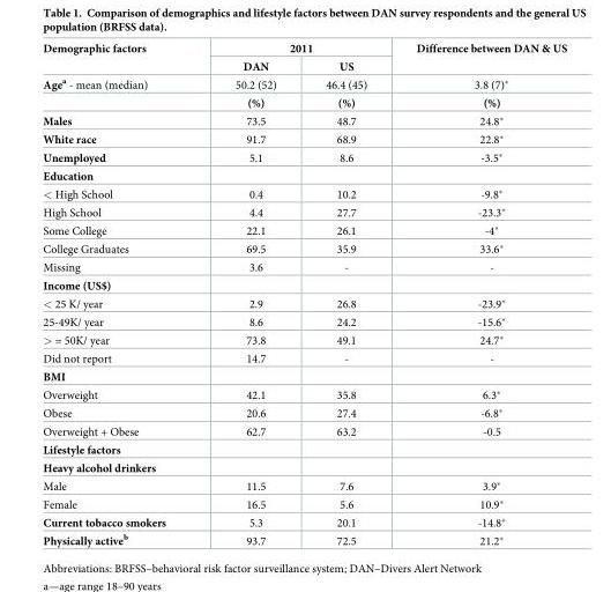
<table><thead><tr><td rowspan="2">Demographic factors</td><td colspan="2">2011</td><td rowspan="2">Difference between DAN &amp; US</td></tr><tr><td>DAN</td><td>US</td></tr></thead><tbody><tr><td rowspan="2">Age<sup>a</sup> - mean (median)</td><td>50.2 (52)</td><td>46.4 (45)</td><td>3.8 (7)*</td></tr><tr><td>(%)</td><td>(%)</td><td>(%)</td></tr><tr><td>Males</td><td>73.5</td><td>48.7</td><td>24.8*</td></tr><tr><td>White race</td><td>91.7</td><td>68.9</td><td>22.8*</td></tr><tr><td>Unemployed</td><td>5.1</td><td>8.6</td><td>-3.5*</td></tr><tr><td colspan="4">Education</td></tr><tr><td>&lt; High School</td><td>0.4</td><td>10.2</td><td>-9.8*</td></tr><tr><td>High School</td><td>4.4</td><td>27.7</td><td>-23.3*</td></tr><tr><td>Some College</td><td>22.1</td><td>26.1</td><td>-4*</td></tr><tr><td>College Graduates</td><td>69.5</td><td>35.9</td><td>33.6*</td></tr><tr><td>Missing</td><td>3.6</td><td>-</td><td>-</td></tr><tr><td colspan="4">Income (US$)</td></tr><tr><td>&lt; 25 K/ year</td><td>2.9</td><td>26.8</td><td>-23.9*</td></tr><tr><td>25-49K/ year</td><td>8.6</td><td>24.2</td><td>-15.6*</td></tr><tr><td>&gt; = 50K/ year</td><td>73.8</td><td>49.1</td><td>24.7*</td></tr><tr><td>Did not report</td><td>14.7</td><td>-</td><td>-</td></tr><tr><td colspan="4">BMI</td></tr><tr><td>Overweight</td><td>42.1</td><td>35.8</td><td>6.3*</td></tr><tr><td>Obese</td><td>20.6</td><td>27.4</td><td>-6.8*</td></tr><tr><td>Overweight + Obese</td><td>62.7</td><td>63.2</td><td>-0.5</td></tr><tr><td colspan="4">Lifestyle factors</td></tr><tr><td colspan="4">Heavy alcohol drinkers</td></tr><tr><td>Male</td><td>11.5</td><td>7.6</td><td>3.9*</td></tr><tr><td>Female</td><td>16.5</td><td>5.6</td><td>10.9*</td></tr><tr><td>Current tobacco smokers</td><td>5.3</td><td>20.1</td><td>-14.8*</td></tr><tr><td>Physically active<sup>b</sup></td><td>93.7</td><td>72.5</td><td>21.2*</td></tr></tbody></table>